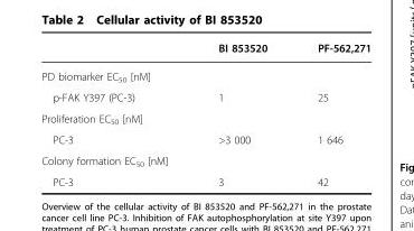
<table><thead><tr><td></td><td>BI 853520</td><td>PF-562,271</td></tr></thead><tbody><tr><td colspan="3">PD biomarker EC<sub>50</sub> [nM]</td></tr><tr><td>p-FAK Y397 (PC-3)</td><td>1</td><td>25</td></tr><tr><td colspan="3">Proliferation EC<sub>50</sub> [nM]</td></tr><tr><td>PC-3</td><td>&gt;3 000</td><td>1 646</td></tr><tr><td colspan="3">Colony formation EC<sub>50</sub> [nM]</td></tr><tr><td>PC-3</td><td>3</td><td>42</td></tr></tbody></table>